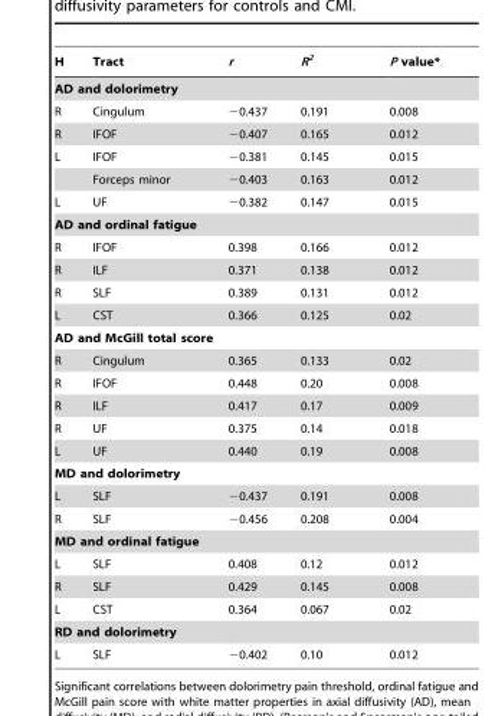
<table><thead><tr><td>H</td><td>Tract</td><td>r</td><td>R<sup>2</sup></td><td>P value*</td></tr></thead><tbody><tr><td colspan="5">AD and dolorimetry</td></tr><tr><td>R</td><td>Cingulum</td><td>−0.437</td><td>0.191</td><td>0.008</td></tr><tr><td>R</td><td>IFOF</td><td>−0.407</td><td>0.165</td><td>0.012</td></tr><tr><td rowspan="2">L</td><td>IFOF</td><td>−0.381</td><td>0.145</td><td>0.015</td></tr><tr><td>Forceps minor</td><td>−0.403</td><td>0.163</td><td>0.012</td></tr><tr><td>L</td><td>UF</td><td>−0.382</td><td>0.147</td><td>0.015</td></tr><tr><td colspan="5">AD and ordinal fatigue</td></tr><tr><td>R</td><td>IFOF</td><td>0.398</td><td>0.166</td><td>0.012</td></tr><tr><td>R</td><td>ILF</td><td>0.371</td><td>0.138</td><td>0.012</td></tr><tr><td>R</td><td>SLF</td><td>0.389</td><td>0.131</td><td>0.012</td></tr><tr><td>L</td><td>CST</td><td>0.366</td><td>0.125</td><td>0.02</td></tr><tr><td colspan="5">AD and McGill total score</td></tr><tr><td>R</td><td>Cingulum</td><td>0.365</td><td>0.133</td><td>0.02</td></tr><tr><td>R</td><td>IFOF</td><td>0.448</td><td>0.20</td><td>0.008</td></tr><tr><td>R</td><td>ILF</td><td>0.417</td><td>0.17</td><td>0.009</td></tr><tr><td>R</td><td>UF</td><td>0.375</td><td>0.14</td><td>0.018</td></tr><tr><td>L</td><td>UF</td><td>0.440</td><td>0.19</td><td>0.008</td></tr><tr><td colspan="5">MD and dolorimetry</td></tr><tr><td>L</td><td>SLF</td><td>−0.437</td><td>0.191</td><td>0.008</td></tr><tr><td>R</td><td>SLF</td><td>−0.456</td><td>0.208</td><td>0.004</td></tr><tr><td colspan="5">MD and ordinal fatigue</td></tr><tr><td>L</td><td>SLF</td><td>0.408</td><td>0.12</td><td>0.012</td></tr><tr><td>R</td><td>SLF</td><td>0.429</td><td>0.145</td><td>0.008</td></tr><tr><td>L</td><td>CST</td><td>0.364</td><td>0.067</td><td>0.02</td></tr><tr><td colspan="5">RD and dolorimetry</td></tr><tr><td>L</td><td>SLF</td><td>−0.402</td><td>0.10</td><td>0.012</td></tr></tbody></table>